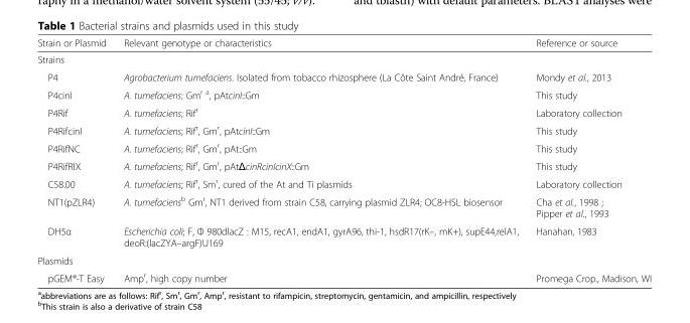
<table><thead><tr><td>Strain or Plasmid</td><td>Relevant genotype or characteristics</td><td>Reference or source</td></tr></thead><tbody><tr><td colspan="3">Strains</td></tr><tr><td>P4</td><td>Agrobacterium tumefaciens. Isolated from tobacco rhizosphere (La Côte Saint André, France)</td><td>Mondy et al., 2013</td></tr><tr><td>P4cinI</td><td>A. tumefaciens; Gm<sup>r a</sup>, pAtcinI::Gm</td><td>This study</td></tr><tr><td>P4Rif</td><td>A. tumefaciens; Rif<sup>r</sup></td><td>Laboratory collection</td></tr><tr><td>P4RifcinI</td><td>A. tumefaciens; Rif<sup>r</sup>, Gm<sup>r</sup>, pAtcinI::Gm</td><td>This study</td></tr><tr><td>P4RifNC</td><td>A. tumefaciens; Rif<sup>r</sup>, Gm<sup>r</sup>, pAt::Gm</td><td>This study</td></tr><tr><td>P4RifRIX</td><td>A. tumefaciens; Rif<sup>r</sup>, Gm<sup>r</sup>, pAtΔcinRcinIcinX::Gm</td><td>This study</td></tr><tr><td>C58.00</td><td>A. tumefaciens; Rif<sup>r</sup>, Sm<sup>r</sup>, cured of the At and Ti plasmids</td><td>Laboratory collection</td></tr><tr><td>NT1(pZLR4)</td><td>A. tumefaciens<sup>b</sup> Gm<sup>r</sup>, NT1 derived from strain C58, carrying plasmid ZLR4; OC8-HSL biosensor</td><td>Cha et al., 1998 ; Pipper et al., 1993</td></tr><tr><td>DH5α</td><td>Escherichia coli; F, Φ 980dlacZ : M15, recA1, endA1, gyrA96, thi-1, hsdR17(rK–, mK+), supE44,relA1, deoR:(lacZYA–argF)U169</td><td>Hanahan, 1983</td></tr><tr><td colspan="3">Plasmids</td></tr><tr><td>pGEM®-T Easy</td><td>Amp<sup>r</sup>, high copy number</td><td>Promega Crop., Madison, WI</td></tr></tbody></table>